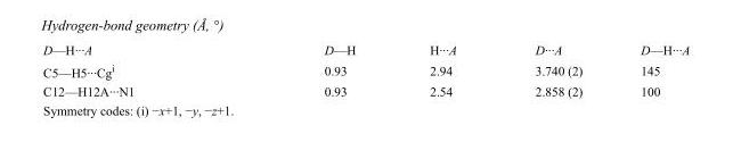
<table><tbody><tr><td>D—H···A</td><td>D—H</td><td>H···A</td><td>D···A</td><td>D—H···A</td></tr><tr><td>C5—H5···Cg<sup>i</sup></td><td>0.93</td><td>2.94</td><td>3.740 (2)</td><td>145</td></tr><tr><td>C12—H12A···N1</td><td>0.93</td><td>2.54</td><td>2.858 (2)</td><td>100</td></tr></tbody></table>